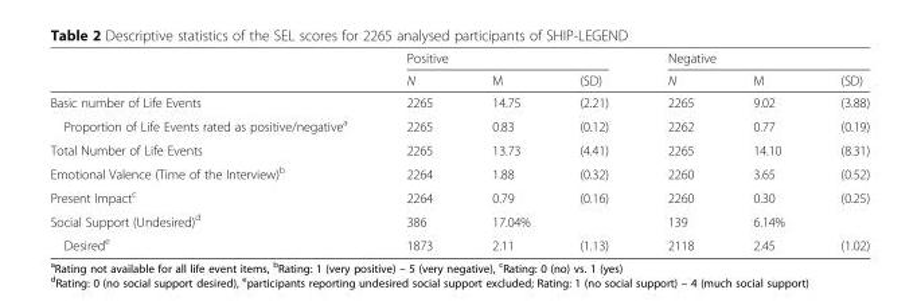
<table><thead><tr><td rowspan="2"></td><td colspan="3">Positive</td><td colspan="3">Negative</td></tr><tr><td>N</td><td>M</td><td>(SD)</td><td>N</td><td>M</td><td>(SD)</td></tr></thead><tbody><tr><td>Basic number of Life Events</td><td>2265</td><td>14.75</td><td>(2.21)</td><td>2265</td><td>9.02</td><td>(3.88)</td></tr><tr><td>Proportion of Life Events rated as positive/negative<sup>a</sup></td><td>2265</td><td>0.83</td><td>(0.12)</td><td>2262</td><td>0.77</td><td>(0.19)</td></tr><tr><td>Total Number of Life Events</td><td>2265</td><td>13.73</td><td>(4.41)</td><td>2265</td><td>14.10</td><td>(8.31)</td></tr><tr><td>Emotional Valence (Time of the Interview)<sup>b</sup></td><td>2264</td><td>1.88</td><td>(0.32)</td><td>2260</td><td>3.65</td><td>(0.52)</td></tr><tr><td>Present Impact<sup>c</sup></td><td>2264</td><td>0.79</td><td>(0.16)</td><td>2260</td><td>0.30</td><td>(0.25)</td></tr><tr><td>Social Support (Undesired)<sup>d</sup></td><td>386</td><td colspan="2">17.04%</td><td>139</td><td colspan="2">6.14%</td></tr><tr><td>Desired<sup>e</sup></td><td>1873</td><td>2.11</td><td>(1.13)</td><td>2118</td><td>2.45</td><td>(1.02)</td></tr></tbody></table>